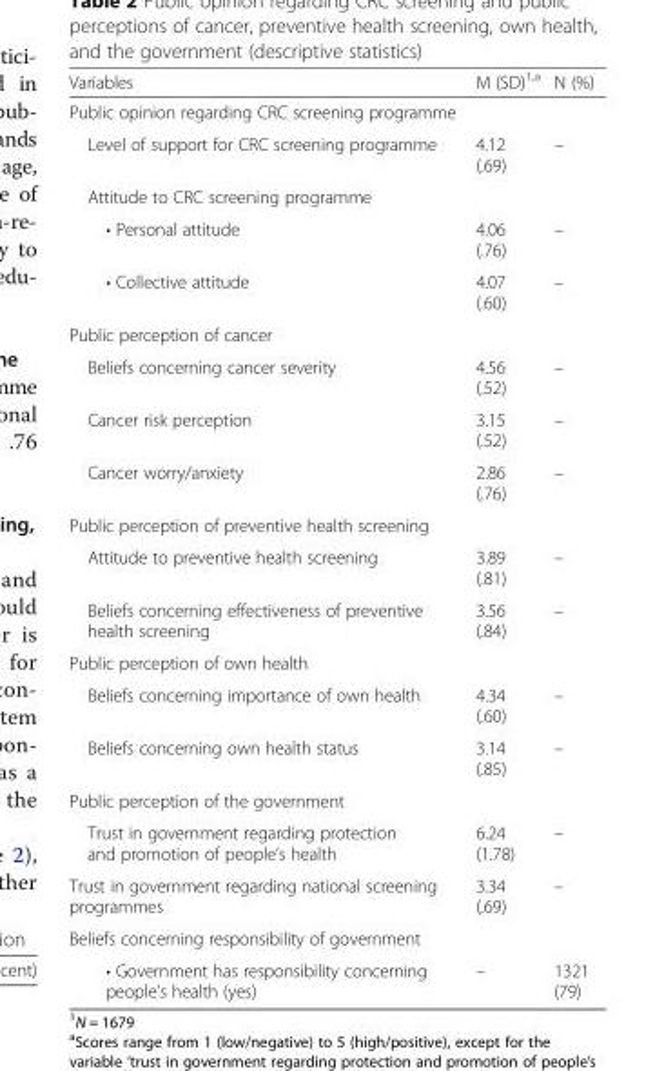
<table><thead><tr><td>Variables</td><td>M (SD)<sup>1,a</sup></td><td>N (%)</td></tr></thead><tbody><tr><td colspan="3">Public opinion regarding CRC screening programme</td></tr><tr><td>Level of support for CRC screening programme</td><td>4.12 (.69)</td><td>–</td></tr><tr><td colspan="3">Attitude to CRC screening programme</td></tr><tr><td>• Personal attitude</td><td>4.06 (.76)</td><td>–</td></tr><tr><td>• Collective attitude</td><td>4.07 (.60)</td><td>–</td></tr><tr><td colspan="3">Public perception of cancer</td></tr><tr><td>Beliefs concerning cancer severity</td><td>4.56 (.52)</td><td>–</td></tr><tr><td>Cancer risk perception</td><td>3.15 (.52)</td><td>–</td></tr><tr><td>Cancer worry/anxiety</td><td>2.86 (.76)</td><td>–</td></tr><tr><td colspan="3">Public perception of preventive health screening</td></tr><tr><td>Attitude to preventive health screening</td><td>3.89 (.81)</td><td>–</td></tr><tr><td>Beliefs concerning effectiveness of preventive health screening</td><td>3.56 (.84)</td><td>–</td></tr><tr><td colspan="3">Public perception of own health</td></tr><tr><td>Beliefs concerning importance of own health</td><td>4.34 (.60)</td><td>–</td></tr><tr><td>Beliefs concerning own health status</td><td>3.14 (.85)</td><td>–</td></tr><tr><td colspan="3">Public perception of the government</td></tr><tr><td>Trust in government regarding protection and promotion of people’s health</td><td>6.24 (1.78)</td><td>–</td></tr><tr><td>Trust in government regarding national screening programmes</td><td>3.34 (.69)</td><td>–</td></tr><tr><td colspan="3">Beliefs concerning responsibility of government</td></tr><tr><td>• Government has responsibility concerning people’s health (yes)</td><td>–</td><td>1321 (79)</td></tr></tbody></table>